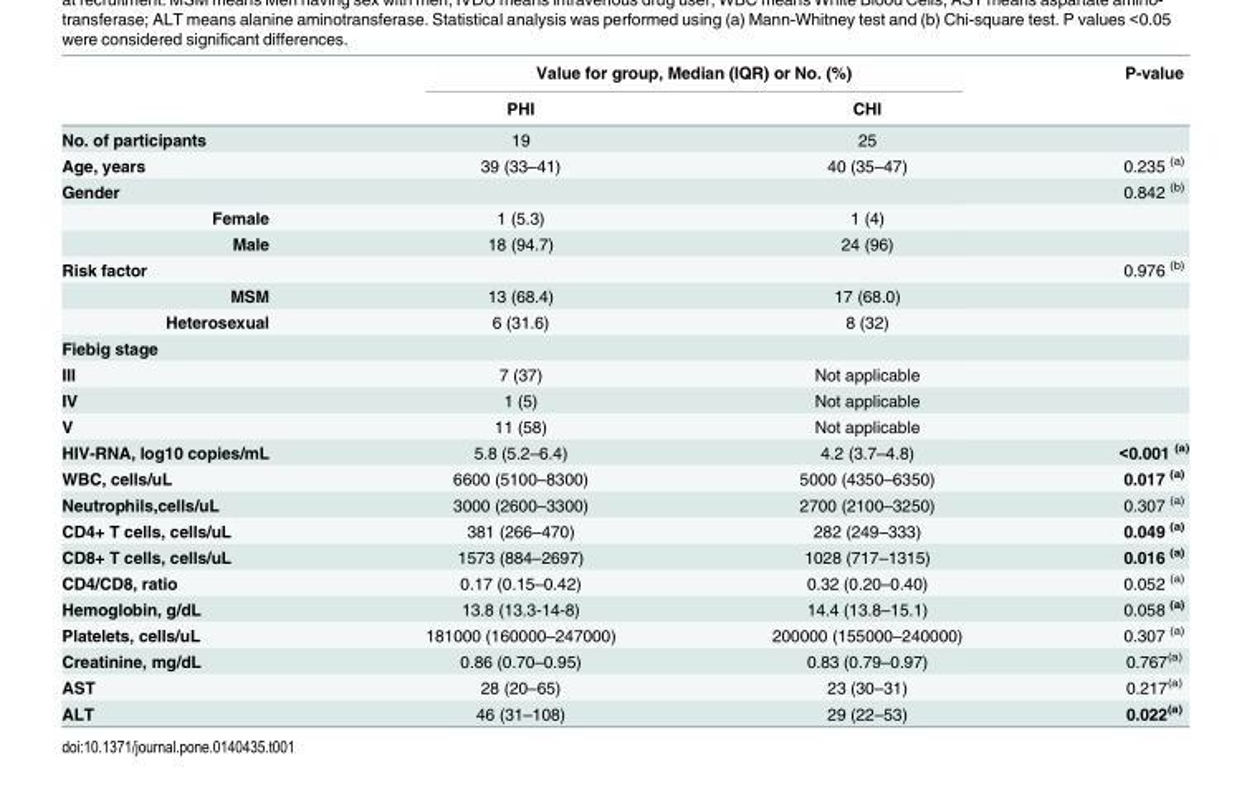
<table><thead><tr><td rowspan="2"></td><td colspan="2">Value for group, Median (IQR) or No. (%)</td><td rowspan="2">P-value</td></tr><tr><td>PHI</td><td>CHI</td></tr></thead><tbody><tr><td>No. of participants</td><td>19</td><td>25</td><td></td></tr><tr><td>Age, years</td><td>39 (33–41)</td><td>40 (35–47)</td><td>0.235 <sup>(a)</sup></td></tr><tr><td>Gender</td><td></td><td></td><td>0.842 <sup>(b)</sup></td></tr><tr><td>Female</td><td>1 (5.3)</td><td>1 (4)</td><td></td></tr><tr><td>Male</td><td>18 (94.7)</td><td>24 (96)</td><td></td></tr><tr><td>Risk factor</td><td></td><td></td><td>0.976 <sup>(b)</sup></td></tr><tr><td>MSM</td><td>13 (68.4)</td><td>17 (68.0)</td><td></td></tr><tr><td>Heterosexual</td><td>6 (31.6)</td><td>8 (32)</td><td></td></tr><tr><td colspan="4">Fiebig stage</td></tr><tr><td>III</td><td>7 (37)</td><td>Not applicable</td><td></td></tr><tr><td>IV</td><td>1 (5)</td><td>Not applicable</td><td></td></tr><tr><td>V</td><td>11 (58)</td><td>Not applicable</td><td></td></tr><tr><td>HIV-RNA, log10 copies/mL</td><td>5.8 (5.2–6.4)</td><td>4.2 (3.7–4.8)</td><td>&lt;0.001 <sup>(a)</sup></td></tr><tr><td>WBC, cells/uL</td><td>6600 (5100–8300)</td><td>5000 (4350–6350)</td><td>0.017 <sup>(a)</sup></td></tr><tr><td>Neutrophils,cells/uL</td><td>3000 (2600–3300)</td><td>2700 (2100–3250)</td><td>0.307 <sup>(a)</sup></td></tr><tr><td>CD4+ T cells, cells/uL</td><td>381 (266–470)</td><td>282 (249–333)</td><td>0.049 <sup>(a)</sup></td></tr><tr><td>CD8+ T cells, cells/uL</td><td>1573 (884–2697)</td><td>1028 (717–1315)</td><td>0.016 <sup>(a)</sup></td></tr><tr><td>CD4/CD8, ratio</td><td>0.17 (0.15–0.42)</td><td>0.32 (0.20–0.40)</td><td>0.052 <sup>(a)</sup></td></tr><tr><td>Hemoglobin, g/dL</td><td>13.8 (13.3-14-8)</td><td>14.4 (13.8–15.1)</td><td>0.058 <sup>(a)</sup></td></tr><tr><td>Platelets, cells/uL</td><td>181000 (160000–247000)</td><td>200000 (155000–240000)</td><td>0.307 <sup>(a)</sup></td></tr><tr><td>Creatinine, mg/dL</td><td>0.86 (0.70–0.95)</td><td>0.83 (0.79–0.97)</td><td>0.767<sup>(a)</sup></td></tr><tr><td>AST</td><td>28 (20–65)</td><td>23 (30–31)</td><td>0.217<sup>(a)</sup></td></tr><tr><td>ALT</td><td>46 (31–108)</td><td>29 (22–53)</td><td>0.022<sup>(a)</sup></td></tr></tbody></table>